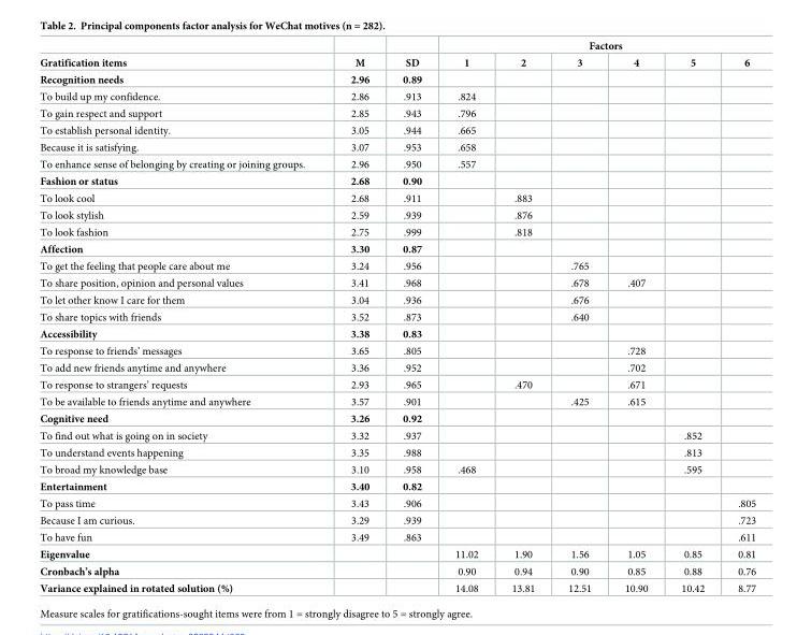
<table><thead><tr><td rowspan="2">Gratification items</td><td rowspan="2">M</td><td rowspan="2">SD</td><td colspan="6">Factors</td></tr><tr><td>1</td><td>2</td><td>3</td><td>4</td><td>5</td><td>6</td></tr></thead><tbody><tr><td>Recognition needs</td><td>2.96</td><td>0.89</td><td></td><td></td><td></td><td></td><td></td><td></td></tr><tr><td>To build up my confidence.</td><td>2.86</td><td>.913</td><td>.824</td><td></td><td></td><td></td><td></td><td></td></tr><tr><td>To gain respect and support</td><td>2.85</td><td>.943</td><td>.796</td><td></td><td></td><td></td><td></td><td></td></tr><tr><td>To establish personal identity.</td><td>3.05</td><td>.944</td><td>.665</td><td></td><td></td><td></td><td></td><td></td></tr><tr><td>Because it is satisfying.</td><td>3.07</td><td>.953</td><td>.658</td><td></td><td></td><td></td><td></td><td></td></tr><tr><td>To enhance sense of belonging by creating or joining groups.</td><td>2.96</td><td>.950</td><td>.557</td><td></td><td></td><td></td><td></td><td></td></tr><tr><td>Fashion or status</td><td>2.68</td><td>0.90</td><td></td><td></td><td></td><td></td><td></td><td></td></tr><tr><td>To look cool</td><td>2.68</td><td>.911</td><td></td><td>.883</td><td></td><td></td><td></td><td></td></tr><tr><td>To look stylish</td><td>2.59</td><td>.939</td><td></td><td>.876</td><td></td><td></td><td></td><td></td></tr><tr><td>To look fashion</td><td>2.75</td><td>.999</td><td></td><td>.818</td><td></td><td></td><td></td><td></td></tr><tr><td>Affection</td><td>3.30</td><td>0.87</td><td></td><td></td><td></td><td></td><td></td><td></td></tr><tr><td>To get the feeling that people care about me</td><td>3.24</td><td>.956</td><td></td><td></td><td>.765</td><td></td><td></td><td></td></tr><tr><td>To share position, opinion and personal values</td><td>3.41</td><td>.968</td><td></td><td></td><td>.678</td><td>.407</td><td></td><td></td></tr><tr><td>To let other know I care for them</td><td>3.04</td><td>.936</td><td></td><td></td><td>.676</td><td></td><td></td><td></td></tr><tr><td>To share topics with friends</td><td>3.52</td><td>.873</td><td></td><td></td><td>.640</td><td></td><td></td><td></td></tr><tr><td>Accessibility</td><td>3.38</td><td>0.83</td><td></td><td></td><td></td><td></td><td></td><td></td></tr><tr><td>To response to friends’ messages</td><td>3.65</td><td>.805</td><td></td><td></td><td></td><td>.728</td><td></td><td></td></tr><tr><td>To add new friends anytime and anywhere</td><td>3.36</td><td>.952</td><td></td><td></td><td></td><td>.702</td><td></td><td></td></tr><tr><td>To response to strangers’ requests</td><td>2.93</td><td>.965</td><td></td><td>.470</td><td></td><td>.671</td><td></td><td></td></tr><tr><td>To be available to friends anytime and anywhere</td><td>3.57</td><td>.901</td><td></td><td></td><td>.425</td><td>.615</td><td></td><td></td></tr><tr><td>Cognitive need</td><td>3.26</td><td>0.92</td><td></td><td></td><td></td><td></td><td></td><td></td></tr><tr><td>To find out what is going on in society</td><td>3.32</td><td>.937</td><td></td><td></td><td></td><td></td><td>.852</td><td></td></tr><tr><td>To understand events happening</td><td>3.35</td><td>.988</td><td></td><td></td><td></td><td></td><td>.813</td><td></td></tr><tr><td>To broad my knowledge base</td><td>3.10</td><td>.958</td><td>.468</td><td></td><td></td><td></td><td>.595</td><td></td></tr><tr><td>Entertainment</td><td>3.40</td><td>0.82</td><td></td><td></td><td></td><td></td><td></td><td></td></tr><tr><td>To pass time</td><td>3.43</td><td>.906</td><td></td><td></td><td></td><td></td><td></td><td>.805</td></tr><tr><td>Because I am curious.</td><td>3.29</td><td>.939</td><td></td><td></td><td></td><td></td><td></td><td>.723</td></tr><tr><td>To have fun</td><td>3.49</td><td>.863</td><td></td><td></td><td></td><td></td><td></td><td>.611</td></tr><tr><td>Eigenvalue</td><td></td><td></td><td>11.02</td><td>1.90</td><td>1.56</td><td>1.05</td><td>0.85</td><td>0.81</td></tr><tr><td>Cronbach’s alpha</td><td></td><td></td><td>0.90</td><td>0.94</td><td>0.90</td><td>0.85</td><td>0.88</td><td>0.76</td></tr><tr><td>Variance explained in rotated solution (%)</td><td></td><td></td><td>14.08</td><td>13.81</td><td>12.51</td><td>10.90</td><td>10.42</td><td>8.77</td></tr></tbody></table>